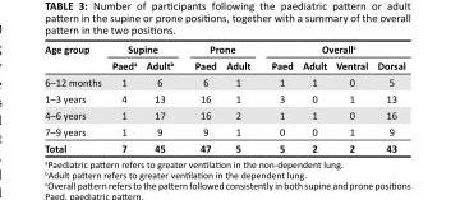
<table><thead><tr><td rowspan="2">Age group</td><td colspan="2">Supine</td><td colspan="2">Prone</td><td colspan="4">Overall<sup>c</sup></td></tr><tr><td>Paed<sup>a</sup></td><td>Adult<sup>b</sup></td><td>Paed</td><td>Adult</td><td>Paed</td><td>Adult</td><td>Ventral</td><td>Dorsal</td></tr></thead><tbody><tr><td>6–12 months</td><td>1</td><td>6</td><td>6</td><td>1</td><td>1</td><td>1</td><td>0</td><td>5</td></tr><tr><td>1–3 years</td><td>4</td><td>13</td><td>16</td><td>1</td><td>3</td><td>0</td><td>1</td><td>13</td></tr><tr><td>4–6 years</td><td>1</td><td>17</td><td>16</td><td>2</td><td>1</td><td>1</td><td>0</td><td>16</td></tr><tr><td>7–9 years</td><td>1</td><td>9</td><td>9</td><td>1</td><td>0</td><td>0</td><td>1</td><td>9</td></tr><tr><td>Total</td><td>7</td><td>45</td><td>47</td><td>5</td><td>5</td><td>2</td><td>2</td><td>43</td></tr></tbody></table>